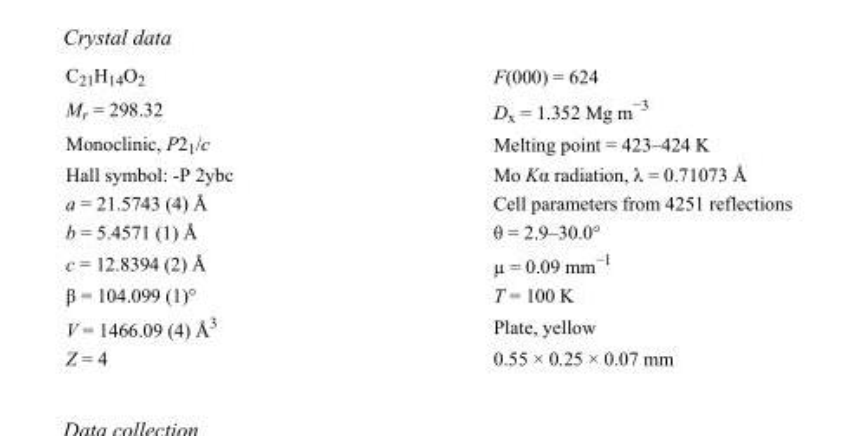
<table><tbody><tr><td>C<sub>21</sub>H<sub>14</sub>O<sub>2</sub></td><td>F(000) = 624</td></tr><tr><td>M<sub>r</sub> = 298.32</td><td>D<sub>x</sub> = 1.352 Mg m<sup>−3</sup></td></tr><tr><td>Monoclinic, P2<sub>1</sub>/c</td><td>Melting point = 423–424 K</td></tr><tr><td>Hall symbol: -P 2ybc</td><td>Mo Kα radiation, λ = 0.71073 Å</td></tr><tr><td>a = 21.5743 (4) Å</td><td>Cell parameters from 4251 reflections</td></tr><tr><td>b = 5.4571 (1) Å</td><td>θ = 2.9–30.0°</td></tr><tr><td>c = 12.8394 (2) Å</td><td>µ = 0.09 mm<sup>−1</sup></td></tr><tr><td>β = 104.099 (1)°</td><td>T = 100 K</td></tr><tr><td>V = 1466.09 (4) Å<sup>3</sup></td><td>Plate, yellow</td></tr><tr><td>Z = 4</td><td>0.55 × 0.25 × 0.07 mm</td></tr></tbody></table>